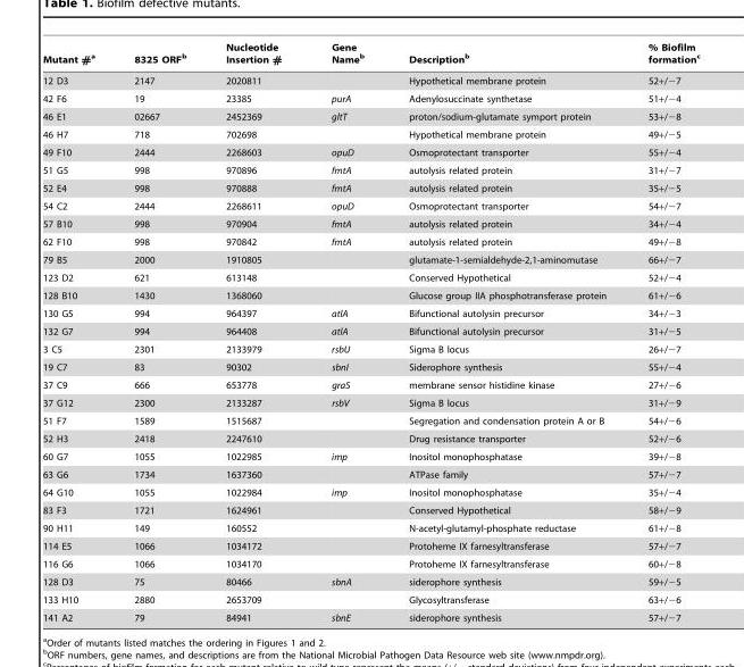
<table><thead><tr><td>Mutant #<sup>a</sup></td><td>8325 ORF<sup>b</sup></td><td>Nucleotide Insertion #</td><td>Gene Name<sup>b</sup></td><td>Description<sup>b</sup></td><td>% Biofilm formation<sup>c</sup></td></tr></thead><tbody><tr><td>12 D3</td><td>2147</td><td>2020811</td><td></td><td>Hypothetical membrane protein</td><td>52+/−7</td></tr><tr><td>42 F6</td><td>19</td><td>23385</td><td>purA</td><td>Adenylosuccinate synthetase</td><td>51+/−4</td></tr><tr><td>46 E1</td><td>02667</td><td>2452369</td><td>gltT</td><td>proton/sodium-glutamate symport protein</td><td>53+/−8</td></tr><tr><td>46 H7</td><td>718</td><td>702698</td><td></td><td>Hypothetical membrane protein</td><td>49+/−5</td></tr><tr><td>49 F10</td><td>2444</td><td>2268603</td><td>opuD</td><td>Osmoprotectant transporter</td><td>55+/−4</td></tr><tr><td>51 G5</td><td>998</td><td>970896</td><td>fmtA</td><td>autolysis related protein</td><td>31+/−7</td></tr><tr><td>52 E4</td><td>998</td><td>970888</td><td>fmtA</td><td>autolysis related protein</td><td>35+/−5</td></tr><tr><td>54 C2</td><td>2444</td><td>2268611</td><td>opuD</td><td>Osmoprotectant transporter</td><td>54+/−7</td></tr><tr><td>57 B10</td><td>998</td><td>970904</td><td>fmtA</td><td>autolysis related protein</td><td>34+/−4</td></tr><tr><td>62 F10</td><td>998</td><td>970842</td><td>fmtA</td><td>autolysis related protein</td><td>49+/−8</td></tr><tr><td>79 B5</td><td>2000</td><td>1910805</td><td></td><td>glutamate-1-semialdehyde-2,1-aminomutase</td><td>66+/−7</td></tr><tr><td>123 D2</td><td>621</td><td>613148</td><td></td><td>Conserved Hypothetical</td><td>52+/−4</td></tr><tr><td>128 B10</td><td>1430</td><td>1368060</td><td></td><td>Glucose group IIA phosphotransferase protein</td><td>61+/−6</td></tr><tr><td>130 G5</td><td>994</td><td>964397</td><td>atlA</td><td>Bifunctional autolysin precursor</td><td>34+/−3</td></tr><tr><td>132 G7</td><td>994</td><td>964408</td><td>atlA</td><td>Bifunctional autolysin precursor</td><td>31+/−5</td></tr><tr><td>3 C5</td><td>2301</td><td>2133979</td><td>rsbU</td><td>Sigma B locus</td><td>26+/−7</td></tr><tr><td>19 C7</td><td>83</td><td>90302</td><td>sbnI</td><td>Siderophore synthesis</td><td>55+/−4</td></tr><tr><td>37 C9</td><td>666</td><td>653778</td><td>graS</td><td>membrane sensor histidine kinase</td><td>27+/−6</td></tr><tr><td>37 G12</td><td>2300</td><td>2133287</td><td>rsbV</td><td>Sigma B locus</td><td>31+/−9</td></tr><tr><td>51 F7</td><td>1589</td><td>1515687</td><td></td><td>Segregation and condensation protein A or B</td><td>54+/−6</td></tr><tr><td>52 H3</td><td>2418</td><td>2247610</td><td></td><td>Drug resistance transporter</td><td>52+/−6</td></tr><tr><td>60 G7</td><td>1055</td><td>1022985</td><td>imp</td><td>Inositol monophosphatase</td><td>39+/−8</td></tr><tr><td>63 G6</td><td>1734</td><td>1637360</td><td></td><td>ATPase family</td><td>57+/−7</td></tr><tr><td>64 G10</td><td>1055</td><td>1022984</td><td>imp</td><td>Inositol monophosphatase</td><td>35+/−4</td></tr><tr><td>83 F3</td><td>1721</td><td>1624961</td><td></td><td>Conserved Hypothetical</td><td>58+/−9</td></tr><tr><td>90 H11</td><td>149</td><td>160552</td><td></td><td>N-acetyl-glutamyl-phosphate reductase</td><td>61+/−8</td></tr><tr><td>114 E5</td><td>1066</td><td>1034172</td><td></td><td>Protoheme IX farnesyltransferase</td><td>57+/−7</td></tr><tr><td>116 G6</td><td>1066</td><td>1034170</td><td></td><td>Protoheme IX farnesyltransferase</td><td>60+/−8</td></tr><tr><td>128 D3</td><td>75</td><td>80466</td><td>sbnA</td><td>siderophore synthesis</td><td>59+/−5</td></tr><tr><td>133 H10</td><td>2880</td><td>2653709</td><td></td><td>Glycosyltransferase</td><td>63+/−6</td></tr><tr><td>141 A2</td><td>79</td><td>84941</td><td>sbnE</td><td>siderophore synthesis</td><td>57+/−7</td></tr></tbody></table>